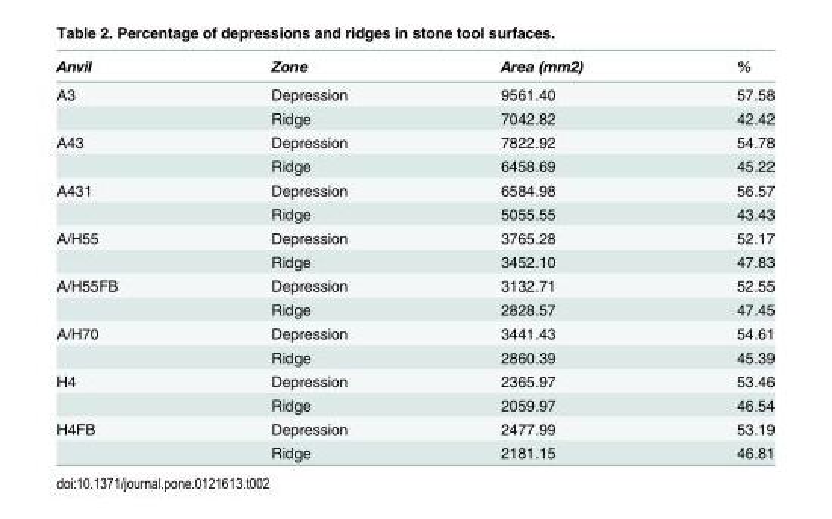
<table><thead><tr><td>Anvil</td><td>Zone</td><td>Area (mm2)</td><td>%</td></tr></thead><tbody><tr><td rowspan="2">A3</td><td>Depression</td><td>9561.40</td><td>57.58</td></tr><tr><td>Ridge</td><td>7042.82</td><td>42.42</td></tr><tr><td rowspan="2">A43</td><td>Depression</td><td>7822.92</td><td>54.78</td></tr><tr><td>Ridge</td><td>6458.69</td><td>45.22</td></tr><tr><td rowspan="2">A431</td><td>Depression</td><td>6584.98</td><td>56.57</td></tr><tr><td>Ridge</td><td>5055.55</td><td>43.43</td></tr><tr><td rowspan="2">A/H55</td><td>Depression</td><td>3765.28</td><td>52.17</td></tr><tr><td>Ridge</td><td>3452.10</td><td>47.83</td></tr><tr><td rowspan="2">A/H55FB</td><td>Depression</td><td>3132.71</td><td>52.55</td></tr><tr><td>Ridge</td><td>2828.57</td><td>47.45</td></tr><tr><td rowspan="2">A/H70</td><td>Depression</td><td>3441.43</td><td>54.61</td></tr><tr><td>Ridge</td><td>2860.39</td><td>45.39</td></tr><tr><td rowspan="2">H4</td><td>Depression</td><td>2365.97</td><td>53.46</td></tr><tr><td>Ridge</td><td>2059.97</td><td>46.54</td></tr><tr><td rowspan="2">H4FB</td><td>Depression</td><td>2477.99</td><td>53.19</td></tr><tr><td>Ridge</td><td>2181.15</td><td>46.81</td></tr></tbody></table>